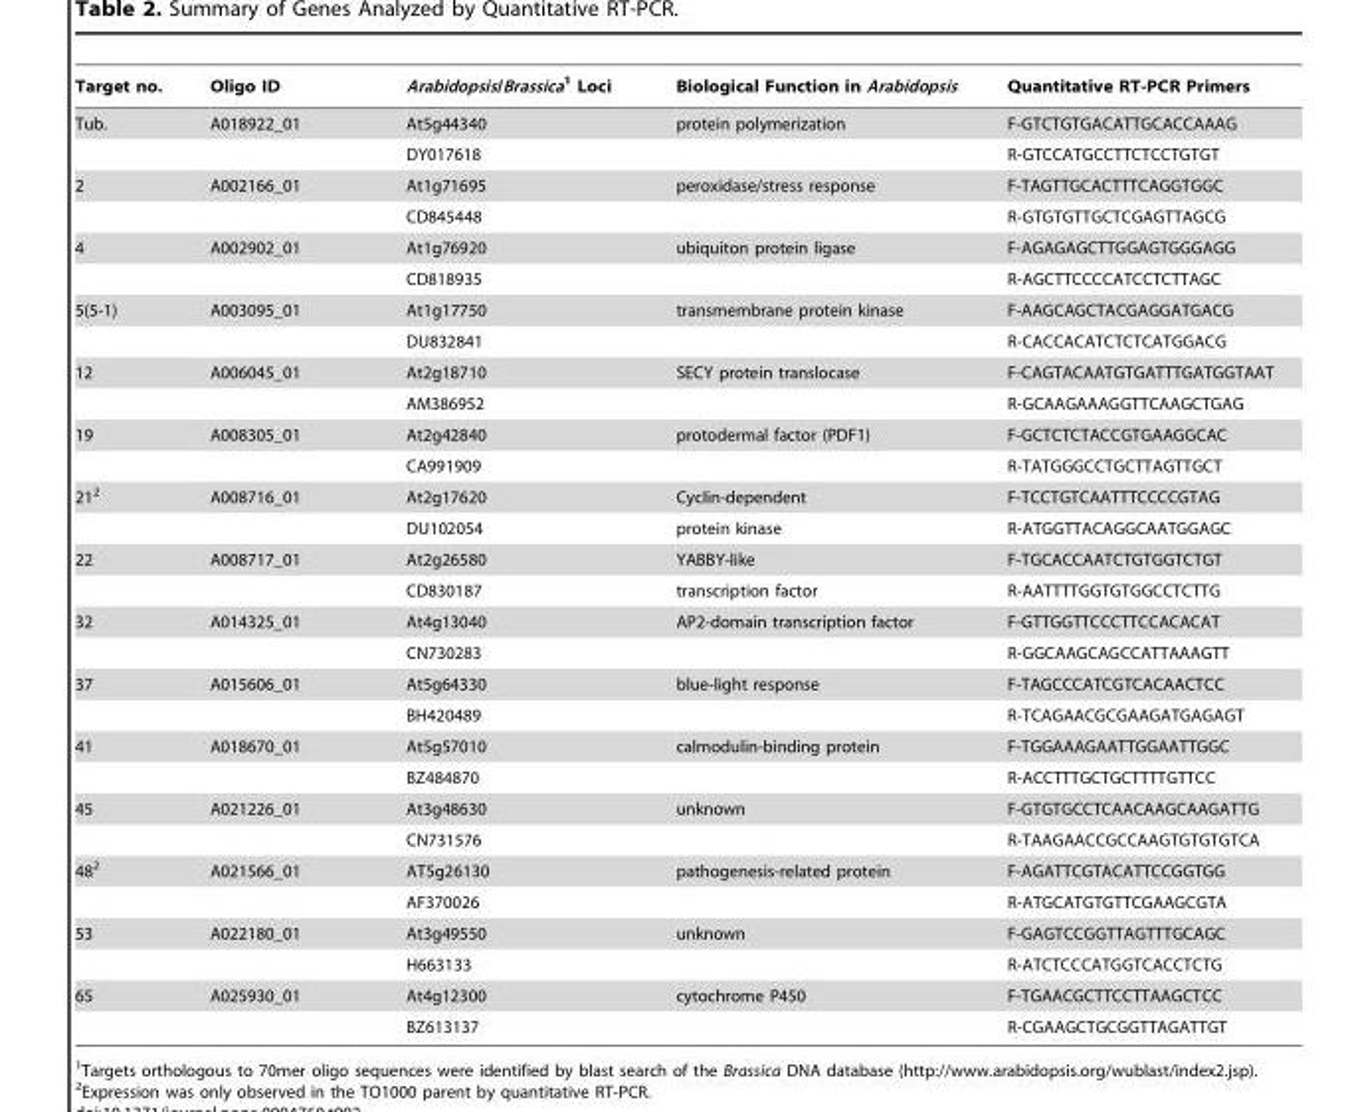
<table><thead><tr><td>Target no.</td><td>Oligo ID</td><td>Arabidopsis/Brassica1 Loci</td><td>Biological Function in Arabidopsis</td><td>Quantitative RT-PCR Primers</td></tr></thead><tbody><tr><td rowspan="2">Tub.</td><td>A018922_01</td><td>At5g44340</td><td>protein polymerization</td><td>F-GTCTGTGACATTGCACCAAAG</td></tr><tr><td></td><td>DY017618</td><td></td><td>R-GTCCATGCCTTCTCCTGTGT</td></tr><tr><td rowspan="2">2</td><td>A002166_01</td><td>At1g71695</td><td>peroxidase/stress response</td><td>F-TAGTTGCACTTTCAGGTGGC</td></tr><tr><td></td><td>CD845448</td><td></td><td>R-GTGTGTTGCTCGAGTTAGCG</td></tr><tr><td rowspan="2">4</td><td>A002902_01</td><td>At1g76920</td><td>ubiquiton protein ligase</td><td>F-AGAGAGCTTGGAGTGGGAGG</td></tr><tr><td></td><td>CD818935</td><td></td><td>R-AGCTTCCCCATCCTCTTAGC</td></tr><tr><td rowspan="2">5(5-1)</td><td>A003095_01</td><td>At1g17750</td><td>transmembrane protein kinase</td><td>F-AAGCAGCTACGAGGATGACG</td></tr><tr><td></td><td>DU832841</td><td></td><td>R-CACCACATCTCTCATGGACG</td></tr><tr><td rowspan="2">12</td><td>A006045_01</td><td>At2g18710</td><td>SECY protein translocase</td><td>F-CAGTACAATGTGATTTGATGGTAAT</td></tr><tr><td></td><td>AM386952</td><td></td><td>R-GCAAGAAAGGTTCAAGCTGAG</td></tr><tr><td rowspan="2">19</td><td>A008305_01</td><td>At2g42840</td><td>protodermal factor (PDF1)</td><td>F-GCTCTCTACCGTGAAGGCAC</td></tr><tr><td></td><td>CA991909</td><td></td><td>R-TATGGGCCTGCTTAGTTGCT</td></tr><tr><td rowspan="2">21<sup>2</sup></td><td>A008716_01</td><td>At2g17620</td><td>Cyclin-dependent</td><td>F-TCCTGTCAATTTCCCCGTAG</td></tr><tr><td></td><td>DU102054</td><td>protein kinase</td><td>R-ATGGTTACAGGCAATGGAGC</td></tr><tr><td rowspan="2">22</td><td>A008717_01</td><td>At2g26580</td><td>YABBY-like</td><td>F-TGCACCAATCTGTGGTCTGT</td></tr><tr><td></td><td>CD830187</td><td>transcription factor</td><td>R-AATTTTGGTGTGGCCTCTTG</td></tr><tr><td rowspan="2">32</td><td>A014325_01</td><td>At4g13040</td><td>AP2-domain transcription factor</td><td>F-GTTGGTTCCCTTCCACACAT</td></tr><tr><td></td><td>CN730283</td><td></td><td>R-GGCAAGCAGCCATTAAAGTT</td></tr><tr><td rowspan="2">37</td><td>A015606_01</td><td>At5g64330</td><td>blue-light response</td><td>F-TAGCCCATCGTCACAACTCC</td></tr><tr><td></td><td>BH420489</td><td></td><td>R-TCAGAACGCGAAGATGAGAGT</td></tr><tr><td rowspan="2">41</td><td>A018670_01</td><td>At5g57010</td><td>calmodulin-binding protein</td><td>F-TGGAAAGAATTGGAATTGGC</td></tr><tr><td></td><td>BZ484870</td><td></td><td>R-ACCTTTGCTGCTTTTGTTCC</td></tr><tr><td rowspan="2">45</td><td>A021226_01</td><td>At3g48630</td><td>unknown</td><td>F-GTGTGCCTCAACAAGCAAGATTG</td></tr><tr><td></td><td>CN731576</td><td></td><td>R-TAAGAACCGCCAAGTGTGTGTCA</td></tr><tr><td rowspan="2">48<sup>2</sup></td><td>A021566_01</td><td>AT5g26130</td><td>pathogenesis-related protein</td><td>F-AGATTCGTACATTCCGGTGG</td></tr><tr><td></td><td>AF370026</td><td></td><td>R-ATGCATGTGTTCGAAGCGTA</td></tr><tr><td rowspan="2">53</td><td>A022180_01</td><td>At3g49550</td><td>unknown</td><td>F-GAGTCCGGTTAGTTTGCAGC</td></tr><tr><td></td><td>H663133</td><td></td><td>R-ATCTCCCATGGTCACCTCTG</td></tr><tr><td rowspan="2">65</td><td>A025930_01</td><td>At4g12300</td><td>cytochrome P450</td><td>F-TGAACGCTTCCTTAAGCTCC</td></tr><tr><td></td><td>BZ613137</td><td></td><td>R-CGAAGCTGCGGTTAGATTGT</td></tr></tbody></table>